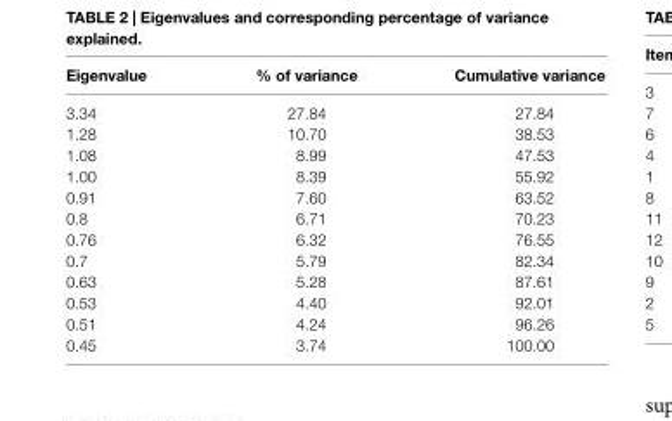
<table><thead><tr><td>eigenvalue</td><td>% of variance</td><td>cumulative variance</td></tr></thead><tbody><tr><td>3.34</td><td>27.84</td><td>27.84</td></tr><tr><td>1.28</td><td>10.70</td><td>38.53</td></tr><tr><td>1.08</td><td>8.99</td><td>47.53</td></tr><tr><td>1.00</td><td>8.39</td><td>55.92</td></tr><tr><td>0.91</td><td>7.60</td><td>63.52</td></tr><tr><td>0.8</td><td>6.71</td><td>70.23</td></tr><tr><td>0.76</td><td>6.32</td><td>76.55</td></tr><tr><td>0.7</td><td>5.79</td><td>82.34</td></tr><tr><td>0.63</td><td>5.28</td><td>87.61</td></tr><tr><td>0.53</td><td>4.40</td><td>92.01</td></tr><tr><td>0.51</td><td>4.24</td><td>96.26</td></tr><tr><td>0.45</td><td>3.74</td><td>100.00</td></tr></tbody></table>